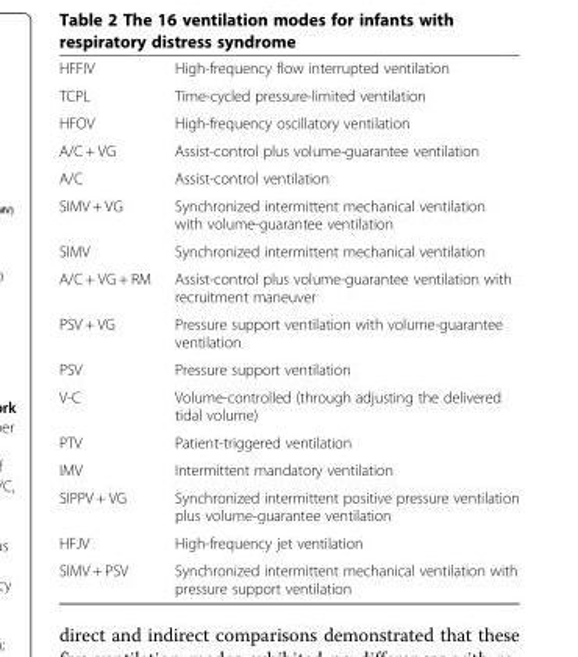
<table><tbody><tr><td>HFFIV</td><td>High-frequency flow interrupted ventilation</td></tr><tr><td>TCPL</td><td>Time-cycled pressure-limited ventilation</td></tr><tr><td>HFOV</td><td>High-frequency oscillatory ventilation</td></tr><tr><td>A/C + VG</td><td>Assist-control plus volume-guarantee ventilation</td></tr><tr><td>A/C</td><td>Assist-control ventilation</td></tr><tr><td>SIMV + VG</td><td>Synchronized intermittent mechanical ventilation with volume-guarantee ventilation</td></tr><tr><td>SIMV</td><td>Synchronized intermittent mechanical ventilation</td></tr><tr><td>A/C + VG + RM</td><td>Assist-control plus volume-guarantee ventilation with recruitment maneuver</td></tr><tr><td>PSV + VG</td><td>Pressure support ventilation with volume-guarantee ventilation</td></tr><tr><td>PSV</td><td>Pressure support ventilation</td></tr><tr><td>V-C</td><td>Volume-controlled (through adjusting the delivered tidal volume)</td></tr><tr><td>PTV</td><td>Patient-triggered ventilation</td></tr><tr><td>IMV</td><td>Intermittent mandatory ventilation</td></tr><tr><td>SIPPV + VG</td><td>Synchronized intermittent positive pressure ventilation plus volume-guarantee ventilation</td></tr><tr><td>HFJV</td><td>High-frequency jet ventilation</td></tr><tr><td>SIMV + PSV</td><td>Synchronized intermittent mechanical ventilation with pressure support ventilation</td></tr></tbody></table>